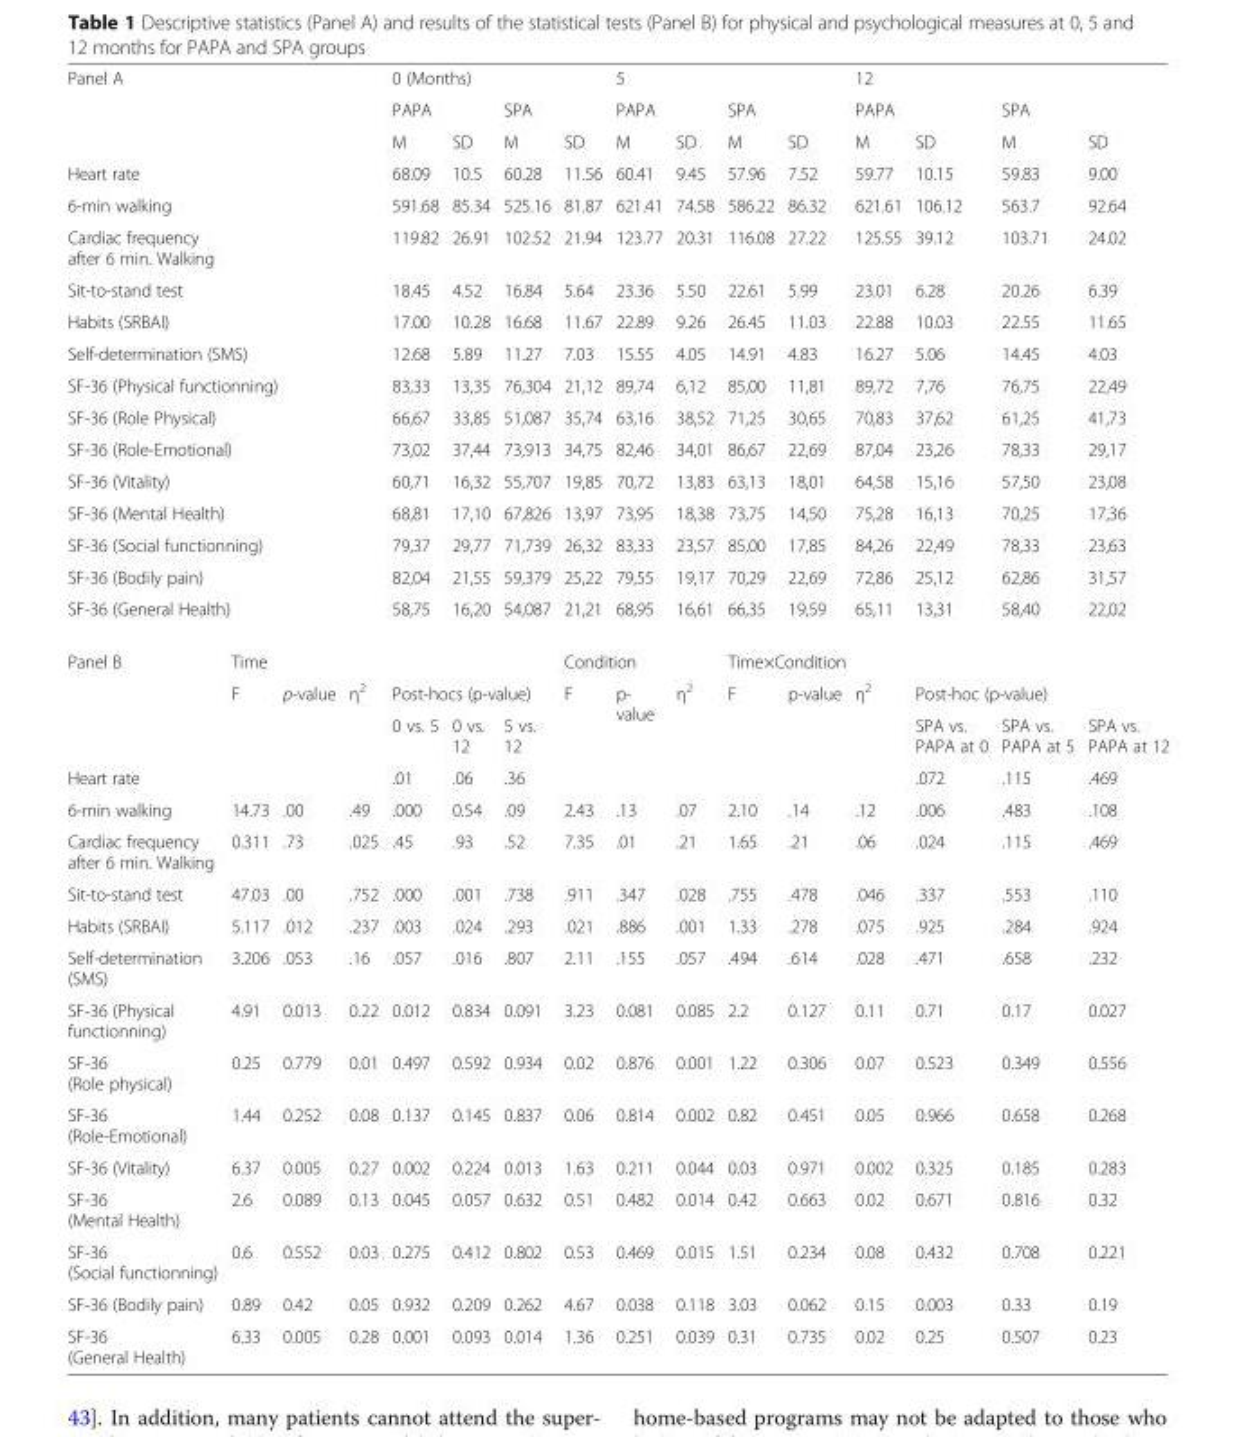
<table><tbody><tr><td rowspan="3" colspan="4">Panel A</td><td colspan="4">0 (Months)</td><td colspan="4">5</td><td colspan="4">12</td></tr><tr><td colspan="2">PAPA</td><td colspan="2">SPA</td><td colspan="2">PAPA</td><td colspan="2">SPA</td><td colspan="2">PAPA</td><td colspan="2">SPA</td></tr><tr><td>M</td><td>SD</td><td>M</td><td>SD</td><td>M</td><td>SD</td><td>M</td><td>SD</td><td>M</td><td>SD</td><td>M</td><td>SD</td></tr><tr><td colspan="4">Heart rate</td><td>68.09</td><td>10.5</td><td>60.28</td><td>11.56</td><td>60.41</td><td>9.45</td><td>57.96</td><td>7.52</td><td>59.77</td><td>10.15</td><td>59.83</td><td>9.00</td></tr><tr><td colspan="4">6-min walking</td><td>591.68</td><td>85.34</td><td>525.16</td><td>81.87</td><td>621.41</td><td>74.58</td><td>586.22</td><td>86.32</td><td>621.61</td><td>106.12</td><td>563.7</td><td>92.64</td></tr><tr><td colspan="4">Cardiac frequency after 6 min. Walking</td><td>119.82</td><td>26.91</td><td>102.52</td><td>21.94</td><td>123.77</td><td>20.31</td><td>116.08</td><td>27.22</td><td>125.55</td><td>39.12</td><td>103.71</td><td>24.02</td></tr><tr><td colspan="4">Sit-to-stand test</td><td>18.45</td><td>4.52</td><td>16.84</td><td>5.64</td><td>23.36</td><td>5.50</td><td>22.61</td><td>5.99</td><td>23.01</td><td>6.28</td><td>20.26</td><td>6.39</td></tr><tr><td colspan="4">Habits (SRBAI)</td><td>17.00</td><td>10.28</td><td>16.68</td><td>11.67</td><td>22.89</td><td>9.26</td><td>26.45</td><td>11.03</td><td>22.88</td><td>10.03</td><td>22.55</td><td>11.65</td></tr><tr><td colspan="4">Self-determination (SMS)</td><td>12.68</td><td>5.89</td><td>11.27</td><td>7.03</td><td>15.55</td><td>4.05</td><td>14.91</td><td>4.83</td><td>16.27</td><td>5.06</td><td>14.45</td><td>4.03</td></tr><tr><td colspan="4">SF-36 (Physical functionning)</td><td>83,33</td><td>13,35</td><td>76,304</td><td>21,12</td><td>89,74</td><td>6,12</td><td>85,00</td><td>11,81</td><td>89,72</td><td>7,76</td><td>76,75</td><td>22,49</td></tr><tr><td colspan="4">SF-36 (Role Physical)</td><td>66,67</td><td>33,85</td><td>51,087</td><td>35,74</td><td>63,16</td><td>38,52</td><td>71,25</td><td>30,65</td><td>70,83</td><td>37,62</td><td>61,25</td><td>41,73</td></tr><tr><td colspan="4">SF-36 (Role-Emotional)</td><td>73,02</td><td>37,44</td><td>73,913</td><td>34,75</td><td>82,46</td><td>34,01</td><td>86,67</td><td>22,69</td><td>87,04</td><td>23,26</td><td>78,33</td><td>29,17</td></tr><tr><td colspan="4">SF-36 (Vitality)</td><td>60,71</td><td>16,32</td><td>55,707</td><td>19,85</td><td>70,72</td><td>13,83</td><td>63,13</td><td>18,01</td><td>64,58</td><td>15,16</td><td>57,50</td><td>23,08</td></tr><tr><td colspan="4">SF-36 (Mental Health)</td><td>68,81</td><td>17,10</td><td>67,826</td><td>13,97</td><td>73,95</td><td>18,38</td><td>73,75</td><td>14,50</td><td>75,28</td><td>16,13</td><td>70,25</td><td>17,36</td></tr><tr><td colspan="4">SF-36 (Social functionning)</td><td>79,37</td><td>29,77</td><td>71,739</td><td>26,32</td><td>83,33</td><td>23,57</td><td>85,00</td><td>17,85</td><td>84,26</td><td>22,49</td><td>78,33</td><td>23,63</td></tr><tr><td colspan="4">SF-36 (Bodily pain)</td><td>82,04</td><td>21,55</td><td>59,379</td><td>25,22</td><td>79,55</td><td>19,17</td><td>70,29</td><td>22,69</td><td>72,86</td><td>25,12</td><td>62,86</td><td>31,57</td></tr><tr><td colspan="4">SF-36 (General Health)</td><td>58,75</td><td>16,20</td><td>54,087</td><td>21,21</td><td>68,95</td><td>16,61</td><td>66,35</td><td>19,59</td><td>65,11</td><td>13,31</td><td>58,40</td><td>22,02</td></tr><tr><td rowspan="3">Panel B</td><td colspan="6">Time</td><td colspan="3">Condition</td><td colspan="6">Time×Condition</td></tr><tr><td rowspan="2">F</td><td rowspan="2">p-value</td><td rowspan="2">η<sup>2</sup></td><td colspan="3">Post-hocs (p-value)</td><td rowspan="2">F</td><td rowspan="2">p- value</td><td rowspan="2">η<sup>2</sup></td><td rowspan="2">F</td><td rowspan="2">p-value</td><td rowspan="2">η<sup>2</sup></td><td colspan="3">Post-hoc (p-value)</td></tr><tr><td>0 vs. 5</td><td>0 vs. 12</td><td>5 vs. 12</td><td>SPA vs. PAPA at 0</td><td>SPA vs. PAPA at 5</td><td>SPA vs. PAPA at 12</td></tr><tr><td>Heart rate</td><td></td><td></td><td></td><td>.01</td><td>.06</td><td>.36</td><td></td><td></td><td></td><td></td><td></td><td></td><td>.072</td><td>.115</td><td>.469</td></tr><tr><td>6-min walking</td><td>14.73</td><td>.00</td><td>.49</td><td>.000</td><td>0.54</td><td>.09</td><td>2.43</td><td>.13</td><td>.07</td><td>2.10</td><td>.14</td><td>.12</td><td>.006</td><td>.483</td><td>.108</td></tr><tr><td>Cardiac frequency after 6 min. Walking</td><td>0.311</td><td>.73</td><td>.025</td><td>.45</td><td>.93</td><td>.52</td><td>7.35</td><td>.01</td><td>.21</td><td>1.65</td><td>.21</td><td>.06</td><td>.024</td><td>.115</td><td>.469</td></tr><tr><td>Sit-to-stand test</td><td>47.03</td><td>.00</td><td>.752</td><td>.000</td><td>.001</td><td>.738</td><td>.911</td><td>.347</td><td>.028</td><td>.755</td><td>.478</td><td>.046</td><td>.337</td><td>.553</td><td>.110</td></tr><tr><td>Habits (SRBAI)</td><td>5.117</td><td>.012</td><td>.237</td><td>.003</td><td>.024</td><td>.293</td><td>.021</td><td>.886</td><td>.001</td><td>1.33</td><td>.278</td><td>.075</td><td>.925</td><td>.284</td><td>.924</td></tr><tr><td>Self-determination (SMS)</td><td>3.206</td><td>.053</td><td>.16</td><td>.057</td><td>.016</td><td>.807</td><td>2.11</td><td>.155</td><td>.057</td><td>.494</td><td>.614</td><td>.028</td><td>.471</td><td>.658</td><td>.232</td></tr><tr><td>SF-36 (Physical functionning)</td><td>4.91</td><td>0.013</td><td>0.22</td><td>0.012</td><td>0.834</td><td>0.091</td><td>3.23</td><td>0.081</td><td>0.085</td><td>2.2</td><td>0.127</td><td>0.11</td><td>0.71</td><td>0.17</td><td>0.027</td></tr><tr><td>SF-36 (Role physical)</td><td>0.25</td><td>0.779</td><td>0.01</td><td>0.497</td><td>0.592</td><td>0.934</td><td>0.02</td><td>0.876</td><td>0.001</td><td>1.22</td><td>0.306</td><td>0.07</td><td>0.523</td><td>0.349</td><td>0.556</td></tr><tr><td>SF-36 (Role-Emotional)</td><td>1.44</td><td>0.252</td><td>0.08</td><td>0.137</td><td>0.145</td><td>0.837</td><td>0.06</td><td>0.814</td><td>0.002</td><td>0.82</td><td>0.451</td><td>0.05</td><td>0.966</td><td>0.658</td><td>0.268</td></tr><tr><td>SF-36 (Vitality)</td><td>6.37</td><td>0.005</td><td>0.27</td><td>0.002</td><td>0.224</td><td>0.013</td><td>1.63</td><td>0.211</td><td>0.044</td><td>0.03</td><td>0.971</td><td>0.002</td><td>0.325</td><td>0.185</td><td>0.283</td></tr><tr><td>SF-36 (Mental Health)</td><td>2.6</td><td>0.089</td><td>0.13</td><td>0.045</td><td>0.057</td><td>0.632</td><td>0.51</td><td>0.482</td><td>0.014</td><td>0.42</td><td>0.663</td><td>0.02</td><td>0.671</td><td>0.816</td><td>0.32</td></tr><tr><td>SF-36 (Social functionning)</td><td>0.6</td><td>0.552</td><td>0.03</td><td>0.275</td><td>0.412</td><td>0.802</td><td>0.53</td><td>0.469</td><td>0.015</td><td>1.51</td><td>0.234</td><td>0.08</td><td>0.432</td><td>0.708</td><td>0.221</td></tr><tr><td>SF-36 (Bodily pain)</td><td>0.89</td><td>0.42</td><td>0.05</td><td>0.932</td><td>0.209</td><td>0.262</td><td>4.67</td><td>0.038</td><td>0.118</td><td>3.03</td><td>0.062</td><td>0.15</td><td>0.003</td><td>0.33</td><td>0.19</td></tr><tr><td>SF-36 (General Health)</td><td>6.33</td><td>0.005</td><td>0.28</td><td>0.001</td><td>0.093</td><td>0.014</td><td>1.36</td><td>0.251</td><td>0.039</td><td>0.31</td><td>0.735</td><td>0.02</td><td>0.25</td><td>0.507</td><td>0.23</td></tr></tbody></table>